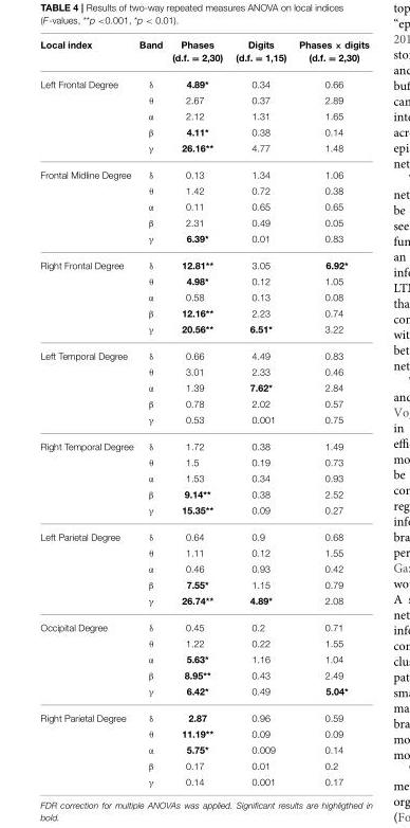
<table><thead><tr><td>Local index</td><td>Band</td><td>Phases (d.f. = 2,30)</td><td>Digits (d.f. = 1,15)</td><td>Phases × digits (d.f. = 2,30)</td></tr></thead><tbody><tr><td rowspan="5">Left Frontal Degree</td><td>δ</td><td>4.89*</td><td>0.34</td><td>0.66</td></tr><tr><td>θ</td><td>2.67</td><td>0.37</td><td>2.89</td></tr><tr><td>α</td><td>2.12</td><td>1.31</td><td>1.65</td></tr><tr><td>β</td><td>4.11*</td><td>0.38</td><td>0.14</td></tr><tr><td>γ</td><td>26.16**</td><td>4.77</td><td>1.48</td></tr><tr><td rowspan="5">Frontal Midline Degree</td><td>δ</td><td>0.13</td><td>1.34</td><td>1.06</td></tr><tr><td>θ</td><td>1.42</td><td>0.72</td><td>0.38</td></tr><tr><td>α</td><td>0.11</td><td>0.65</td><td>0.65</td></tr><tr><td>β</td><td>2.31</td><td>0.49</td><td>0.05</td></tr><tr><td>γ</td><td>6.39*</td><td>0.01</td><td>0.83</td></tr><tr><td rowspan="5">Right Frontal Degree</td><td>δ</td><td>12.81**</td><td>3.05</td><td>6.92*</td></tr><tr><td>θ</td><td>4.98*</td><td>0.12</td><td>1.05</td></tr><tr><td>α</td><td>0.58</td><td>0.13</td><td>0.08</td></tr><tr><td>β</td><td>12.16**</td><td>2.23</td><td>0.74</td></tr><tr><td>γ</td><td>20.56**</td><td>6.51*</td><td>3.22</td></tr><tr><td rowspan="5">Left Temporal Degree</td><td>δ</td><td>0.66</td><td>4.49</td><td>0.83</td></tr><tr><td>θ</td><td>3.01</td><td>2.33</td><td>0.46</td></tr><tr><td>α</td><td>1.39</td><td>7.62*</td><td>2.84</td></tr><tr><td>β</td><td>0.78</td><td>2.02</td><td>0.57</td></tr><tr><td>γ</td><td>0.53</td><td>0.001</td><td>0.75</td></tr><tr><td rowspan="5">Right Temporal Degree</td><td>δ</td><td>1.72</td><td>0.38</td><td>1.49</td></tr><tr><td>θ</td><td>1.5</td><td>0.19</td><td>0.73</td></tr><tr><td>α</td><td>1.53</td><td>0.34</td><td>0.93</td></tr><tr><td>β</td><td>9.14**</td><td>0.38</td><td>2.52</td></tr><tr><td>γ</td><td>15.35**</td><td>0.09</td><td>0.27</td></tr><tr><td rowspan="5">Left Parietal Degree</td><td>δ</td><td>0.64</td><td>0.9</td><td>0.68</td></tr><tr><td>θ</td><td>1.11</td><td>0.12</td><td>1.55</td></tr><tr><td>α</td><td>0.46</td><td>0.93</td><td>0.42</td></tr><tr><td>β</td><td>7.55*</td><td>1.15</td><td>0.79</td></tr><tr><td>γ</td><td>26.74**</td><td>4.89*</td><td>2.08</td></tr><tr><td rowspan="5">Occipital Degree</td><td>δ</td><td>0.45</td><td>0.2</td><td>0.71</td></tr><tr><td>θ</td><td>1.22</td><td>0.22</td><td>1.55</td></tr><tr><td>α</td><td>5.63*</td><td>1.16</td><td>1.04</td></tr><tr><td>β</td><td>8.95**</td><td>0.43</td><td>2.49</td></tr><tr><td>γ</td><td>6.42*</td><td>0.49</td><td>5.04*</td></tr><tr><td rowspan="5">Right Parietal Degree</td><td>δ</td><td>2.87</td><td>0.96</td><td>0.59</td></tr><tr><td>θ</td><td>11.19**</td><td>0.09</td><td>0.09</td></tr><tr><td>α</td><td>5.75*</td><td>0.009</td><td>0.14</td></tr><tr><td>β</td><td>0.17</td><td>0.01</td><td>0.2</td></tr><tr><td>γ</td><td>0.14</td><td>0.001</td><td>0.17</td></tr></tbody></table>